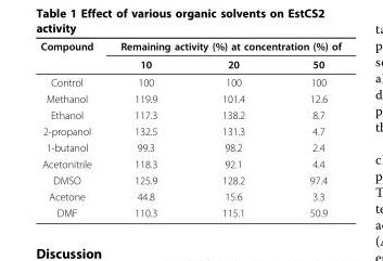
<table><thead><tr><td rowspan="2">Compound</td><td colspan="3">Remaining activity (%) at concentration (%) of</td></tr><tr><td>10</td><td>20</td><td>50</td></tr></thead><tbody><tr><td>Control</td><td>100</td><td>100</td><td>100</td></tr><tr><td>Methanol</td><td>119.9</td><td>101.4</td><td>12.6</td></tr><tr><td>Ethanol</td><td>117.3</td><td>138.2</td><td>8.7</td></tr><tr><td>2-propanol</td><td>132.5</td><td>131.3</td><td>4.7</td></tr><tr><td>1-butanol</td><td>99.3</td><td>98.2</td><td>2.4</td></tr><tr><td>Acetonitrile</td><td>118.3</td><td>92.1</td><td>4.4</td></tr><tr><td>DMSO</td><td>125.9</td><td>128.2</td><td>97.4</td></tr><tr><td>Acetone</td><td>44.8</td><td>15.6</td><td>3.3</td></tr><tr><td>DMF</td><td>110.3</td><td>115.1</td><td>50.9</td></tr></tbody></table>